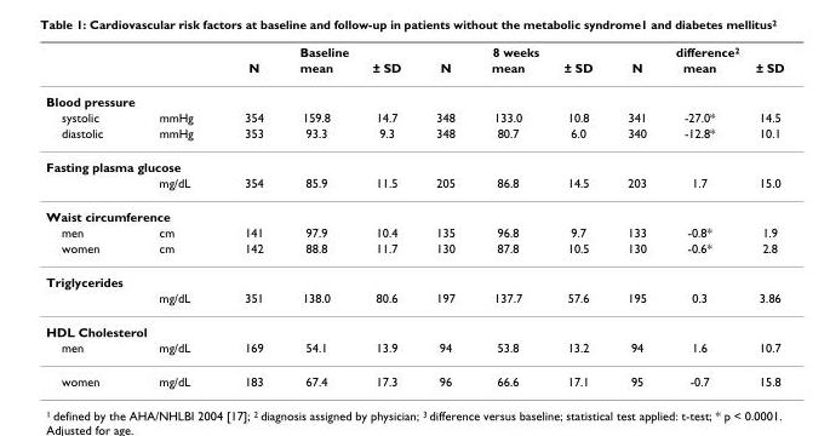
<table><thead><tr><td rowspan="2"></td><td rowspan="2"></td><td colspan="3">Baseline</td><td colspan="3">8 weeks</td><td colspan="3">difference<sup>2</sup></td></tr><tr><td>N</td><td>mean</td><td>± SD</td><td>N</td><td>mean</td><td>± SD</td><td>N</td><td>mean</td><td>± SD</td></tr></thead><tbody><tr><td colspan="11">Blood pressure</td></tr><tr><td>systolic</td><td>mmHg</td><td>354</td><td>159.8</td><td>14.7</td><td>348</td><td>133.0</td><td>10.8</td><td>341</td><td>-27.0*</td><td>14.5</td></tr><tr><td>diastolic</td><td>mmHg</td><td>353</td><td>93.3</td><td>9.3</td><td>348</td><td>80.7</td><td>6.0</td><td>340</td><td>-12.8*</td><td>10.1</td></tr><tr><td colspan="11">Fasting plasma glucose</td></tr><tr><td></td><td>mg/dL</td><td>354</td><td>85.9</td><td>11.5</td><td>205</td><td>86.8</td><td>14.5</td><td>203</td><td>1.7</td><td>15.0</td></tr><tr><td colspan="11">Waist circumference</td></tr><tr><td>men</td><td>cm</td><td>141</td><td>97.9</td><td>10.4</td><td>135</td><td>96.8</td><td>9.7</td><td>133</td><td>-0.8*</td><td>1.9</td></tr><tr><td>women</td><td>cm</td><td>142</td><td>88.8</td><td>11.7</td><td>130</td><td>87.8</td><td>10.5</td><td>130</td><td>-0.6*</td><td>2.8</td></tr><tr><td colspan="11">Triglycerides</td></tr><tr><td></td><td>mg/dL</td><td>351</td><td>138.0</td><td>80.6</td><td>197</td><td>137.7</td><td>57.6</td><td>195</td><td>0.3</td><td>3.86</td></tr><tr><td colspan="11">HDL Cholesterol</td></tr><tr><td>men</td><td>mg/dL</td><td>169</td><td>54.1</td><td>13.9</td><td>94</td><td>53.8</td><td>13.2</td><td>94</td><td>1.6</td><td>10.7</td></tr><tr><td>women</td><td>mg/dL</td><td>183</td><td>67.4</td><td>17.3</td><td>96</td><td>66.6</td><td>17.1</td><td>95</td><td>-0.7</td><td>15.8</td></tr></tbody></table>